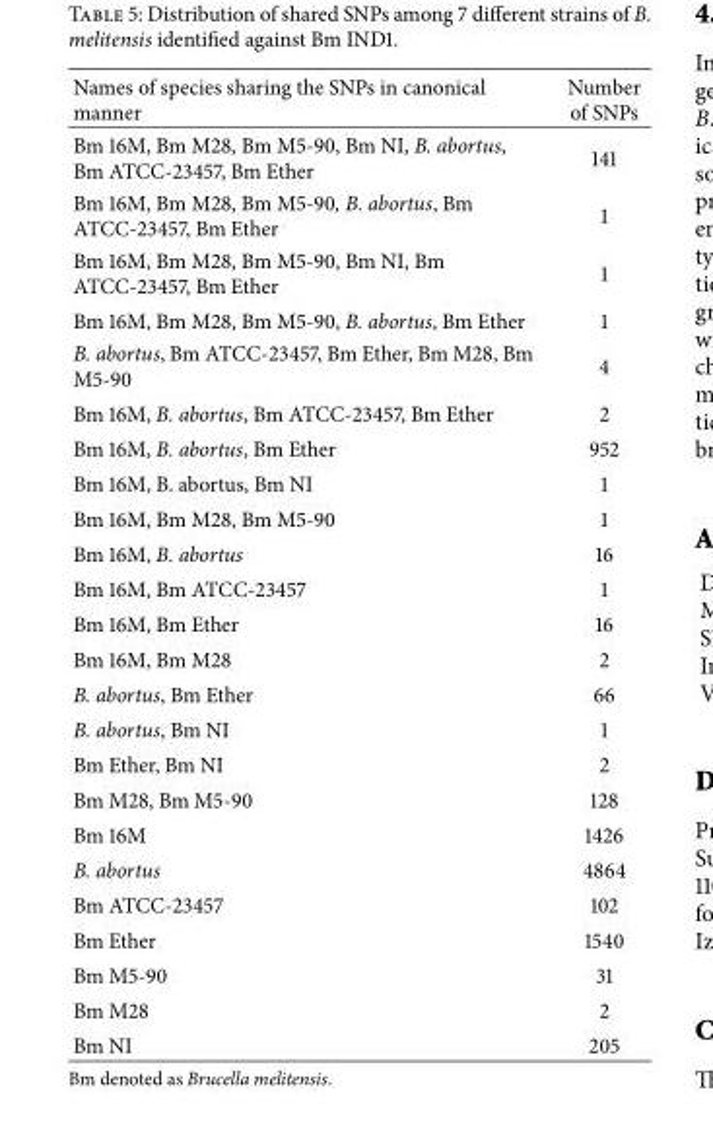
<table><thead><tr><td>Names of species sharing the SNPs in canonical manner</td><td>Number of SNPs</td></tr></thead><tbody><tr><td>Bm 16M, Bm M28, Bm M5-90, Bm NI, B. abortus, Bm ATCC-23457, Bm Ether</td><td>141</td></tr><tr><td>Bm 16M, Bm M28, Bm M5-90, B. abortus, Bm ATCC-23457, Bm Ether</td><td>1</td></tr><tr><td>Bm 16M, Bm M28, Bm M5-90, Bm NI, Bm ATCC-23457, Bm Ether</td><td>1</td></tr><tr><td>Bm 16M, Bm M28, Bm M5-90, B. abortus, Bm Ether</td><td>1</td></tr><tr><td>B. abortus, Bm ATCC-23457, Bm Ether, Bm M28, Bm M5-90</td><td>4</td></tr><tr><td>Bm 16M, B. abortus, Bm ATCC-23457, Bm Ether</td><td>2</td></tr><tr><td>Bm 16M, B. abortus, Bm Ether</td><td>952</td></tr><tr><td>Bm 16M, B. abortus, Bm NI</td><td>1</td></tr><tr><td>Bm 16M, Bm M28, Bm M5-90</td><td>1</td></tr><tr><td>Bm 16M, B. abortus</td><td>16</td></tr><tr><td>Bm 16M, Bm ATCC-23457</td><td>1</td></tr><tr><td>Bm 16M, Bm Ether</td><td>16</td></tr><tr><td>Bm 16M, Bm M28</td><td>2</td></tr><tr><td>B. abortus, Bm Ether</td><td>66</td></tr><tr><td>B. abortus, Bm NI</td><td>1</td></tr><tr><td>Bm Ether, Bm NI</td><td>2</td></tr><tr><td>Bm M28, Bm M5-90</td><td>128</td></tr><tr><td>Bm 16M</td><td>1426</td></tr><tr><td>B. abortus</td><td>4864</td></tr><tr><td>Bm ATCC-23457</td><td>102</td></tr><tr><td>Bm Ether</td><td>1540</td></tr><tr><td>Bm M5-90</td><td>31</td></tr><tr><td>Bm M28</td><td>2</td></tr><tr><td>Bm NI</td><td>205</td></tr></tbody></table>